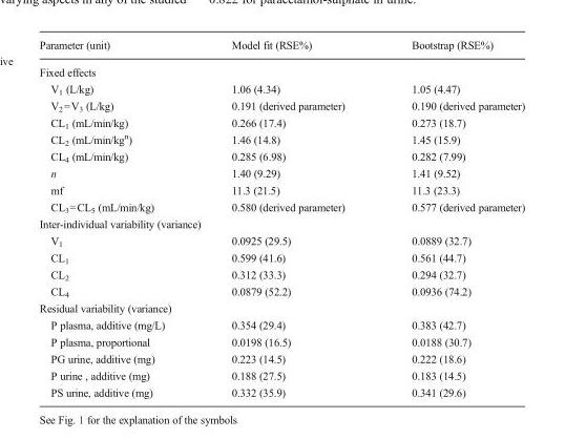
<table><thead><tr><td>Parameter (unit)</td><td>Model fit (RSE%)</td><td>Bootstrap (RSE%)</td></tr></thead><tbody><tr><td colspan="3">Fixed effects</td></tr><tr><td>V<sub>1</sub> (L/kg)</td><td>1.06 (4.34)</td><td>1.05 (4.47)</td></tr><tr><td>V<sub>2</sub>=V<sub>3</sub> (L/kg)</td><td>0.191 (derived parameter)</td><td>0.190 (derived parameter)</td></tr><tr><td>CL<sub>1</sub> (mL/min/kg)</td><td>0.266 (17.4)</td><td>0.273 (18.7)</td></tr><tr><td>CL<sub>2</sub> (mL/min/kg<sup>n</sup>)</td><td>1.46 (14.8)</td><td>1.45 (15.9)</td></tr><tr><td>CL<sub>4</sub> (mL/min/kg)</td><td>0.285 (6.98)</td><td>0.282 (7.99)</td></tr><tr><td>n</td><td>1.40 (9.29)</td><td>1.41 (9.52)</td></tr><tr><td>mf</td><td>11.3 (21.5)</td><td>11.3 (23.3)</td></tr><tr><td>CL<sub>3</sub>=CL<sub>5</sub> (mL/min/kg)</td><td>0.580 (derived parameter)</td><td>0.577 (derived parameter)</td></tr><tr><td colspan="3">Inter-individual variability (variance)</td></tr><tr><td>V<sub>1</sub></td><td>0.0925 (29.5)</td><td>0.0889 (32.7)</td></tr><tr><td>CL<sub>1</sub></td><td>0.599 (41.6)</td><td>0.561 (44.7)</td></tr><tr><td>CL<sub>2</sub></td><td>0.312 (33.3)</td><td>0.294 (32.7)</td></tr><tr><td>CL<sub>4</sub></td><td>0.0879 (52.2)</td><td>0.0936 (74.2)</td></tr><tr><td colspan="3">Residual variability (variance)</td></tr><tr><td>P plasma, additive (mg/L)</td><td>0.354 (29.4)</td><td>0.383 (42.7)</td></tr><tr><td>P plasma, proportional</td><td>0.0198 (16.5)</td><td>0.0188 (30.7)</td></tr><tr><td>PG urine, additive (mg)</td><td>0.223 (14.5)</td><td>0.222 (18.6)</td></tr><tr><td>P urine , additive (mg)</td><td>0.188 (27.5)</td><td>0.183 (14.5)</td></tr><tr><td>PS urine, additive (mg)</td><td>0.332 (35.9)</td><td>0.341 (29.6)</td></tr></tbody></table>